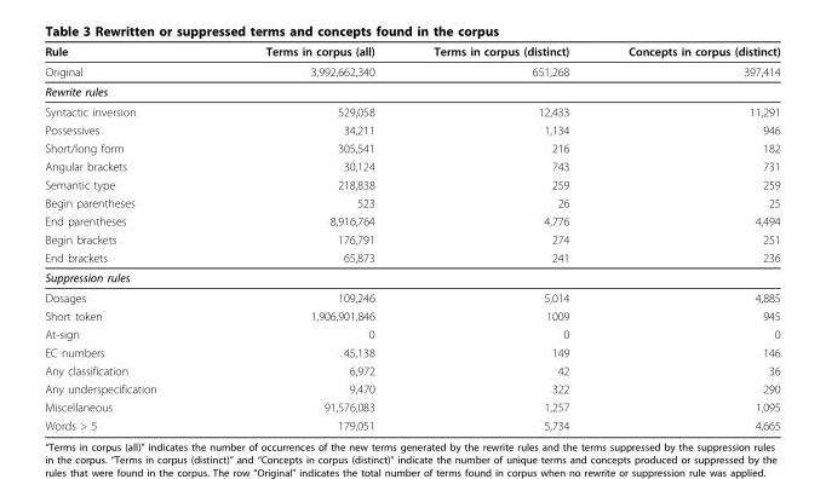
<table><thead><tr><td>Rule</td><td>Terms in corpus (all)</td><td>Terms in corpus (distinct)</td><td>Concepts in corpus (distinct)</td></tr></thead><tbody><tr><td>Original</td><td>3,992,662,340</td><td>651,268</td><td>397,414</td></tr><tr><td colspan="4">Rewrite rules</td></tr><tr><td>Syntactic inversion</td><td>529,058</td><td>12,433</td><td>11,291</td></tr><tr><td>Possessives</td><td>34,211</td><td>1,134</td><td>946</td></tr><tr><td>Short/long form</td><td>305,541</td><td>216</td><td>182</td></tr><tr><td>Angular brackets</td><td>30,124</td><td>743</td><td>731</td></tr><tr><td>Semantic type</td><td>218,838</td><td>259</td><td>259</td></tr><tr><td>Begin parentheses</td><td>523</td><td>26</td><td>25</td></tr><tr><td>End parentheses</td><td>8,916,764</td><td>4,776</td><td>4,494</td></tr><tr><td>Begin brackets</td><td>176,791</td><td>274</td><td>251</td></tr><tr><td>End brackets</td><td>65,873</td><td>241</td><td>236</td></tr><tr><td colspan="4">Suppression rules</td></tr><tr><td>Dosages</td><td>109,246</td><td>5,014</td><td>4,885</td></tr><tr><td>Short token</td><td>1,906,901,846</td><td>1009</td><td>945</td></tr><tr><td>At-sign</td><td>0</td><td>0</td><td>0</td></tr><tr><td>EC numbers</td><td>45,138</td><td>149</td><td>146</td></tr><tr><td>Any classification</td><td>6,972</td><td>42</td><td>36</td></tr><tr><td>Any underspecification</td><td>9,470</td><td>322</td><td>290</td></tr><tr><td>Miscellaneous</td><td>91,576,083</td><td>1,257</td><td>1,095</td></tr><tr><td>Words &gt; 5</td><td>179,051</td><td>5,734</td><td>4,665</td></tr></tbody></table>